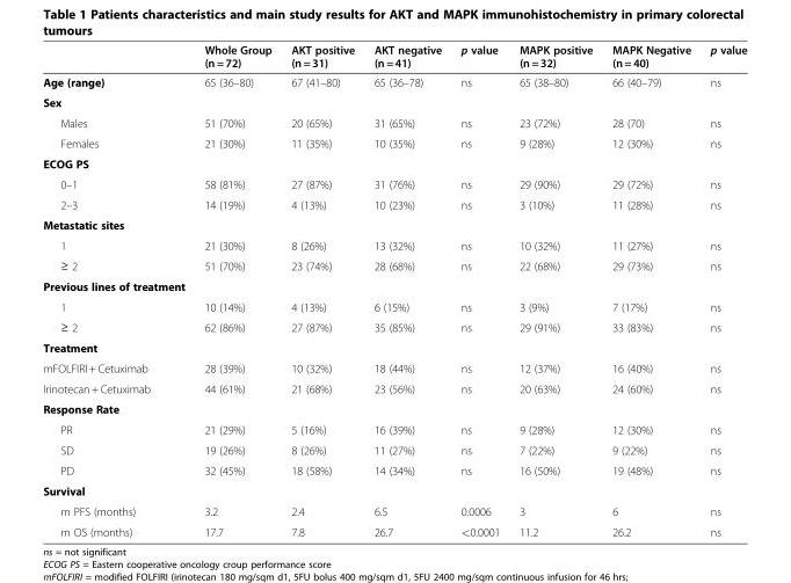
<table><thead><tr><td></td><td>Whole Group (n = 72)</td><td>AKT positive (n = 31)</td><td>AKT negative (n = 41)</td><td>p value</td><td>MAPK positive (n = 32)</td><td>MAPK Negative (n = 40)</td><td>p value</td></tr></thead><tbody><tr><td>Age (range)</td><td>65 (36–80)</td><td>67 (41–80)</td><td>65 (36–78)</td><td>ns</td><td>65 (38–80)</td><td>66 (40–79)</td><td>ns</td></tr><tr><td colspan="8">Sex</td></tr><tr><td>Males</td><td>51 (70%)</td><td>20 (65%)</td><td>31 (65%)</td><td>ns</td><td>23 (72%)</td><td>28 (70)</td><td>ns</td></tr><tr><td>Females</td><td>21 (30%)</td><td>11 (35%)</td><td>10 (35%)</td><td>ns</td><td>9 (28%)</td><td>12 (30%)</td><td>ns</td></tr><tr><td colspan="8">ECOG PS</td></tr><tr><td>0–1</td><td>58 (81%)</td><td>27 (87%)</td><td>31 (76%)</td><td>ns</td><td>29 (90%)</td><td>29 (72%)</td><td>ns</td></tr><tr><td>2–3</td><td>14 (19%)</td><td>4 (13%)</td><td>10 (23%)</td><td>ns</td><td>3 (10%)</td><td>11 (28%)</td><td>ns</td></tr><tr><td colspan="8">Metastatic sites</td></tr><tr><td>1</td><td>21 (30%)</td><td>8 (26%)</td><td>13 (32%)</td><td>ns</td><td>10 (32%)</td><td>11 (27%)</td><td>ns</td></tr><tr><td>≥ 2</td><td>51 (70%)</td><td>23 (74%)</td><td>28 (68%)</td><td>ns</td><td>22 (68%)</td><td>29 (73%)</td><td>ns</td></tr><tr><td colspan="8">Previous lines of treatment</td></tr><tr><td>1</td><td>10 (14%)</td><td>4 (13%)</td><td>6 (15%)</td><td>ns</td><td>3 (9%)</td><td>7 (17%)</td><td>ns</td></tr><tr><td>≥ 2</td><td>62 (86%)</td><td>27 (87%)</td><td>35 (85%)</td><td>ns</td><td>29 (91%)</td><td>33 (83%)</td><td>ns</td></tr><tr><td colspan="8">Treatment</td></tr><tr><td>mFOLFIRI + Cetuximab</td><td>28 (39%)</td><td>10 (32%)</td><td>18 (44%)</td><td>ns</td><td>12 (37%)</td><td>16 (40%)</td><td>ns</td></tr><tr><td>Irinotecan + Cetuximab</td><td>44 (61%)</td><td>21 (68%)</td><td>23 (56%)</td><td>ns</td><td>20 (63%)</td><td>24 (60%)</td><td>ns</td></tr><tr><td colspan="8">Response Rate</td></tr><tr><td>PR</td><td>21 (29%)</td><td>5 (16%)</td><td>16 (39%)</td><td>ns</td><td>9 (28%)</td><td>12 (30%)</td><td>ns</td></tr><tr><td>SD</td><td>19 (26%)</td><td>8 (26%)</td><td>11 (27%)</td><td>ns</td><td>7 (22%)</td><td>9 (22%)</td><td>ns</td></tr><tr><td>PD</td><td>32 (45%)</td><td>18 (58%)</td><td>14 (34%)</td><td>ns</td><td>16 (50%)</td><td>19 (48%)</td><td>ns</td></tr><tr><td colspan="8">Survival</td></tr><tr><td>m PFS (months)</td><td>3.2</td><td>2.4</td><td>6.5</td><td>0.0006</td><td>3</td><td>6</td><td>ns</td></tr><tr><td>m OS (months)</td><td>17.7</td><td>7.8</td><td>26.7</td><td>&lt;0.0001</td><td>11.2</td><td>26.2</td><td>ns</td></tr></tbody></table>